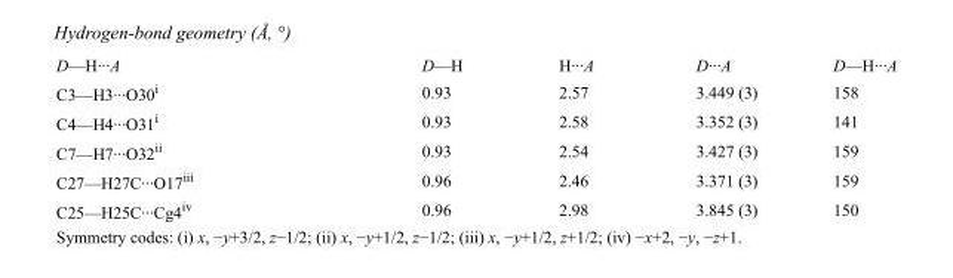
<table><tbody><tr><td>D—H···A</td><td>D—H</td><td>H···A</td><td>D···A</td><td>D—H···A</td></tr><tr><td>C3—H3···O30<sup>i</sup></td><td>0.93</td><td>2.57</td><td>3.449 (3)</td><td>158</td></tr><tr><td>C4—H4···O31<sup>i</sup></td><td>0.93</td><td>2.58</td><td>3.352 (3)</td><td>141</td></tr><tr><td>C7—H7···O32<sup>ii</sup></td><td>0.93</td><td>2.54</td><td>3.427 (3)</td><td>159</td></tr><tr><td>C27—H27C···O17<sup>iii</sup></td><td>0.96</td><td>2.46</td><td>3.371 (3)</td><td>159</td></tr><tr><td>C25—H25C···Cg4<sup>iv</sup></td><td>0.96</td><td>2.98</td><td>3.845 (3)</td><td>150</td></tr></tbody></table>